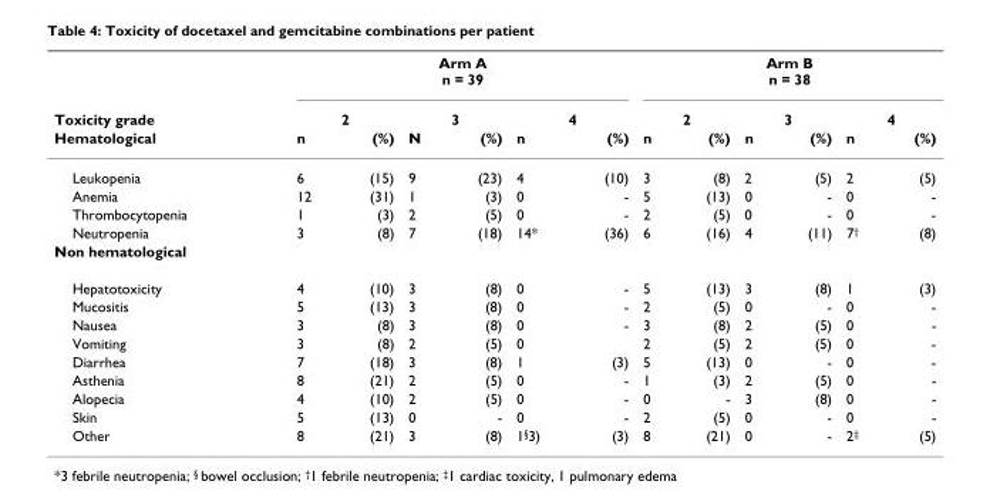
<table><thead><tr><td rowspan="3">Toxicity grade Hematological</td><td colspan="6">Arm A n = 39</td><td colspan="6">Arm B n = 38</td></tr><tr><td colspan="2">2</td><td colspan="2">3</td><td colspan="2">4</td><td colspan="2">2</td><td colspan="2">3</td><td colspan="2">4</td></tr><tr><td>n</td><td>(%)</td><td>N</td><td>(%)</td><td>n</td><td>(%)</td><td>n</td><td>(%)</td><td>n</td><td>(%)</td><td>n</td><td>(%)</td></tr></thead><tbody><tr><td>Leukopenia</td><td>6</td><td>(15)</td><td>9</td><td>(23)</td><td>4</td><td>(10)</td><td>3</td><td>(8)</td><td>2</td><td>(5)</td><td>2</td><td>(5)</td></tr><tr><td>Anemia</td><td>12</td><td>(31)</td><td>1</td><td>(3)</td><td>0</td><td>-</td><td>5</td><td>(13)</td><td>0</td><td>-</td><td>0</td><td>-</td></tr><tr><td>Thrombocytopenia</td><td>1</td><td>(3)</td><td>2</td><td>(5)</td><td>0</td><td>-</td><td>2</td><td>(5)</td><td>0</td><td>-</td><td>0</td><td>-</td></tr><tr><td>Neutropenia</td><td>3</td><td>(8)</td><td>7</td><td>(18)</td><td>14*</td><td>(36)</td><td>6</td><td>(16)</td><td>4</td><td>(11)</td><td>7<sup>†</sup></td><td>(8)</td></tr><tr><td colspan="13">Non hematological</td></tr><tr><td>Hepatotoxicity</td><td>4</td><td>(10)</td><td>3</td><td>(8)</td><td>0</td><td>-</td><td>5</td><td>(13)</td><td>3</td><td>(8)</td><td>1</td><td>(3)</td></tr><tr><td>Mucositis</td><td>5</td><td>(13)</td><td>3</td><td>(8)</td><td>0</td><td>-</td><td>2</td><td>(5)</td><td>0</td><td>-</td><td>0</td><td>-</td></tr><tr><td>Nausea</td><td>3</td><td>(8)</td><td>3</td><td>(8)</td><td>0</td><td>-</td><td>3</td><td>(8)</td><td>2</td><td>(5)</td><td>0</td><td>-</td></tr><tr><td>Vomiting</td><td>3</td><td>(8)</td><td>2</td><td>(5)</td><td>0</td><td></td><td>2</td><td>(5)</td><td>2</td><td>(5)</td><td>0</td><td>-</td></tr><tr><td>Diarrhea</td><td>7</td><td>(18)</td><td>3</td><td>(8)</td><td>1</td><td>(3)</td><td>5</td><td>(13)</td><td>0</td><td>-</td><td>0</td><td>-</td></tr><tr><td>Asthenia</td><td>8</td><td>(21)</td><td>2</td><td>(5)</td><td>0</td><td>-</td><td>1</td><td>(3)</td><td>2</td><td>(5)</td><td>0</td><td>-</td></tr><tr><td>Alopecia</td><td>4</td><td>(10)</td><td>2</td><td>(5)</td><td>0</td><td>-</td><td>0</td><td>-</td><td>3</td><td>(8)</td><td>0</td><td>-</td></tr><tr><td>Skin</td><td>5</td><td>(13)</td><td>0</td><td>-</td><td>0</td><td>-</td><td>2</td><td>(5)</td><td>0</td><td>-</td><td>0</td><td>-</td></tr><tr><td>Other</td><td>8</td><td>(21)</td><td>3</td><td>(8)</td><td>1<sup>§</sup>3)</td><td>(3)</td><td>8</td><td>(21)</td><td>0</td><td>-</td><td>2<sup>‡</sup></td><td>(5)</td></tr></tbody></table>